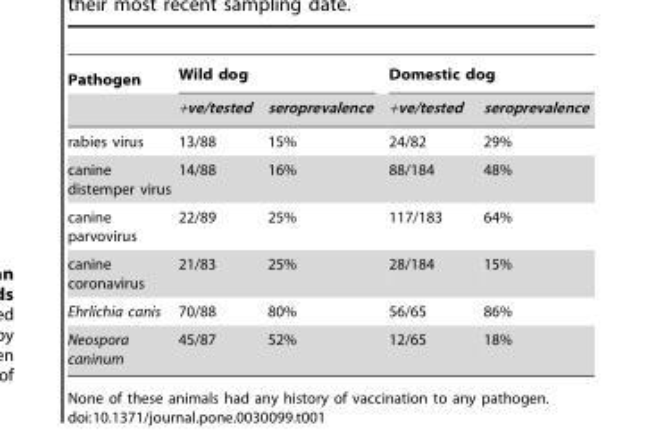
<table><thead><tr><td rowspan="2">Pathogen</td><td colspan="2">Wild dog</td><td colspan="2">Domestic dog</td></tr><tr><td>+ve/tested</td><td>seroprevalence</td><td>+ve/tested</td><td>seroprevalence</td></tr></thead><tbody><tr><td>rabies virus</td><td>13/88</td><td>15%</td><td>24/82</td><td>29%</td></tr><tr><td>canine distemper virus</td><td>14/88</td><td>16%</td><td>88/184</td><td>48%</td></tr><tr><td>canine parvovirus</td><td>22/89</td><td>25%</td><td>117/183</td><td>64%</td></tr><tr><td>canine coronavirus</td><td>21/83</td><td>25%</td><td>28/184</td><td>15%</td></tr><tr><td>Ehrlichia canis</td><td>70/88</td><td>80%</td><td>56/65</td><td>86%</td></tr><tr><td>Neospora caninum</td><td>45/87</td><td>52%</td><td>12/65</td><td>18%</td></tr></tbody></table>